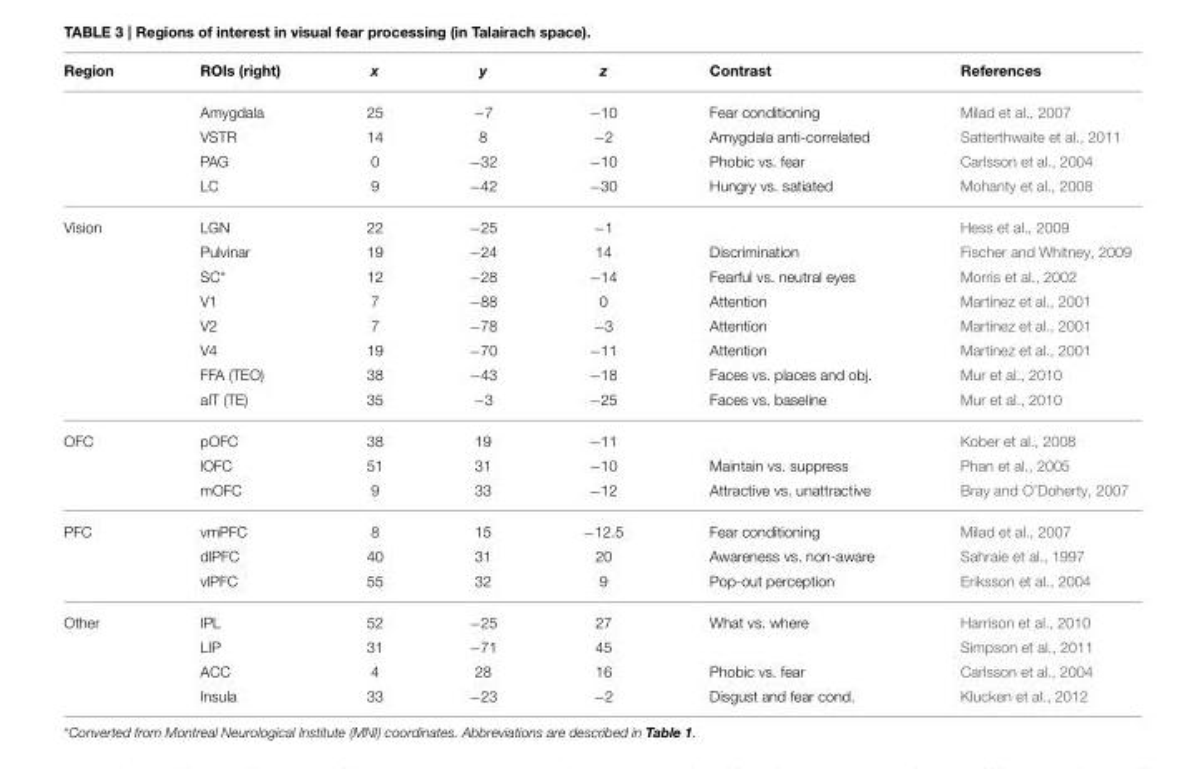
<table><thead><tr><td>Region</td><td>ROIs (right)</td><td>x</td><td>y</td><td>z</td><td>Contrast</td><td>References</td></tr></thead><tbody><tr><td></td><td>Amygdala</td><td>25</td><td>−7</td><td>−10</td><td>Fear conditioning</td><td>Milad et al., 2007</td></tr><tr><td></td><td>VSTR</td><td>14</td><td>8</td><td>−2</td><td>Amygdala anti-correlated</td><td>Satterthwaite et al., 2011</td></tr><tr><td></td><td>PAG</td><td>0</td><td>−32</td><td>−10</td><td>Phobic vs. fear</td><td>Carlsson et al., 2004</td></tr><tr><td></td><td>LC</td><td>9</td><td>−42</td><td>−30</td><td>Hungry vs. satiated</td><td>Mohanty et al., 2008</td></tr><tr><td rowspan="8">Vision</td><td>LGN</td><td>22</td><td>−25</td><td>−1</td><td></td><td>Hess et al., 2009</td></tr><tr><td>Pulvinar</td><td>19</td><td>−24</td><td>14</td><td>Discrimination</td><td>Fischer and Whitney, 2009</td></tr><tr><td>SC*</td><td>12</td><td>−28</td><td>−14</td><td>Fearful vs. neutral eyes</td><td>Morris et al., 2002</td></tr><tr><td>V1</td><td>7</td><td>−88</td><td>0</td><td>Attention</td><td>Martínez et al., 2001</td></tr><tr><td>V2</td><td>7</td><td>−78</td><td>−3</td><td>Attention</td><td>Martínez et al., 2001</td></tr><tr><td>V4</td><td>19</td><td>−70</td><td>−11</td><td>Attention</td><td>Martínez et al., 2001</td></tr><tr><td>FFA (TEO)</td><td>38</td><td>−43</td><td>−18</td><td>Faces vs. places and obj.</td><td>Mur et al., 2010</td></tr><tr><td>aIT (TE)</td><td>35</td><td>−3</td><td>−25</td><td>Faces vs. baseline</td><td>Mur et al., 2010</td></tr><tr><td rowspan="3">OFC</td><td>pOFC</td><td>38</td><td>19</td><td>−11</td><td></td><td>Kober et al., 2008</td></tr><tr><td>lOFC</td><td>51</td><td>31</td><td>−10</td><td>Maintain vs. suppress</td><td>Phan et al., 2005</td></tr><tr><td>mOFC</td><td>9</td><td>33</td><td>−12</td><td>Attractive vs. unattractive</td><td>Bray and O’Doherty, 2007</td></tr><tr><td rowspan="3">PFC</td><td>vmPFC</td><td>8</td><td>15</td><td>−12.5</td><td>Fear conditioning</td><td>Milad et al., 2007</td></tr><tr><td>dlPFC</td><td>40</td><td>31</td><td>20</td><td>Awareness vs. non-aware</td><td>Sahraie et al., 1997</td></tr><tr><td>vlPFC</td><td>55</td><td>32</td><td>9</td><td>Pop-out perception</td><td>Eriksson et al., 2004</td></tr><tr><td rowspan="4">Other</td><td>IPL</td><td>52</td><td>−25</td><td>27</td><td>What vs. where</td><td>Harrison et al., 2010</td></tr><tr><td>LIP</td><td>31</td><td>−71</td><td>45</td><td></td><td>Simpson et al., 2011</td></tr><tr><td>ACC</td><td>4</td><td>28</td><td>16</td><td>Phobic vs. fear</td><td>Carlsson et al., 2004</td></tr><tr><td>Insula</td><td>33</td><td>−23</td><td>−2</td><td>Disgust and fear cond.</td><td>Klucken et al., 2012</td></tr></tbody></table>